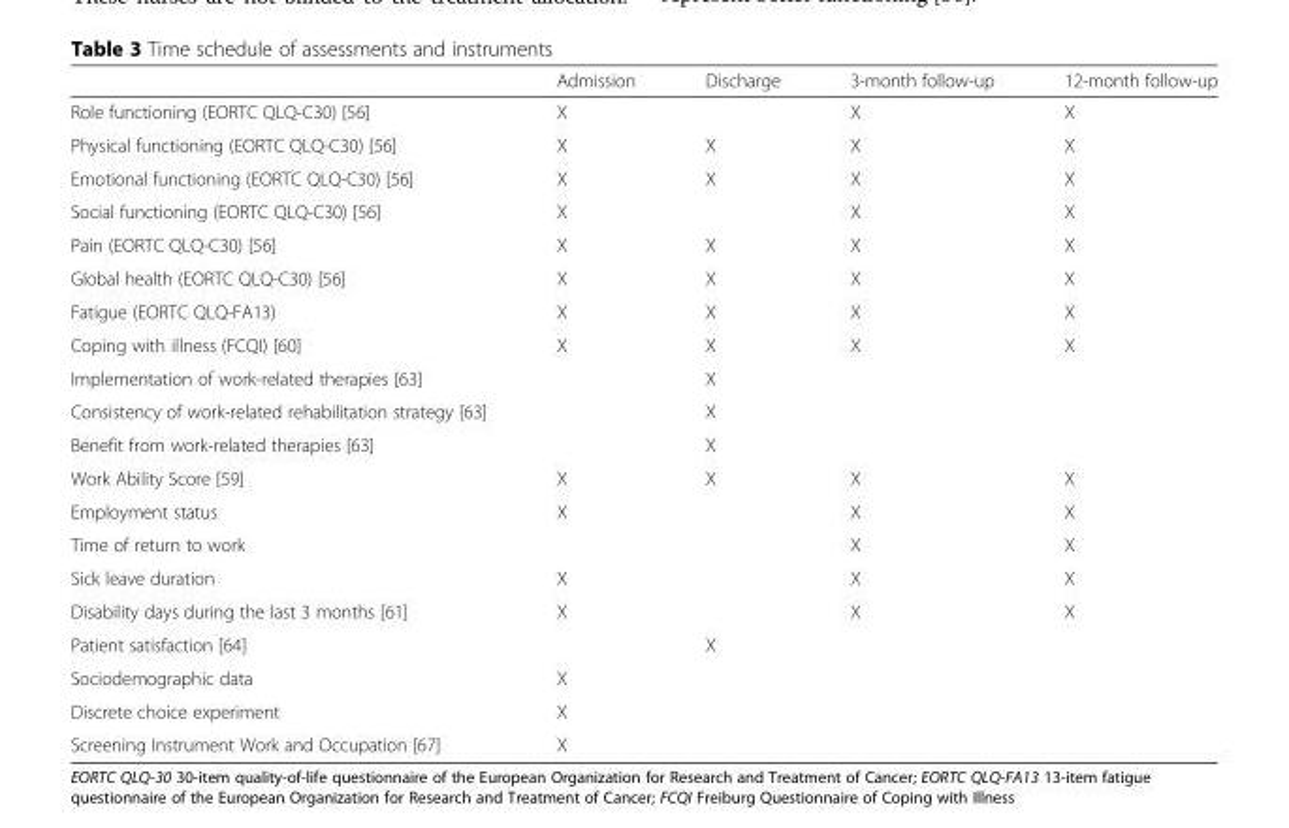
<table><thead><tr><td></td><td>Admission</td><td>Discharge</td><td>3-month follow-up</td><td>12-month follow-up</td></tr></thead><tbody><tr><td>Role functioning (EORTC QLQ-C30) [56]</td><td>X</td><td></td><td>X</td><td>X</td></tr><tr><td>Physical functioning (EORTC QLQ-C30) [56]</td><td>X</td><td>X</td><td>X</td><td>X</td></tr><tr><td>Emotional functioning (EORTC QLQ-C30) [56]</td><td>X</td><td>X</td><td>X</td><td>X</td></tr><tr><td>Social functioning (EORTC QLQ-C30) [56]</td><td>X</td><td></td><td>X</td><td>X</td></tr><tr><td>Pain (EORTC QLQ-C30) [56]</td><td>X</td><td>X</td><td>X</td><td>X</td></tr><tr><td>Global health (EORTC QLQ-C30) [56]</td><td>X</td><td>X</td><td>X</td><td>X</td></tr><tr><td>Fatigue (EORTC QLQ-FA13)</td><td>X</td><td>X</td><td>X</td><td>X</td></tr><tr><td>Coping with illness (FCQI) [60]</td><td>X</td><td>X</td><td>X</td><td>X</td></tr><tr><td>Implementation of work-related therapies [63]</td><td></td><td>X</td><td></td><td></td></tr><tr><td>Consistency of work-related rehabilitation strategy [63]</td><td></td><td>X</td><td></td><td></td></tr><tr><td>Benefit from work-related therapies [63]</td><td></td><td>X</td><td></td><td></td></tr><tr><td>Work Ability Score [59]</td><td>X</td><td>X</td><td>X</td><td>X</td></tr><tr><td>Employment status</td><td>X</td><td></td><td>X</td><td>X</td></tr><tr><td>Time of return to work</td><td></td><td></td><td>X</td><td>X</td></tr><tr><td>Sick leave duration</td><td>X</td><td></td><td>X</td><td>X</td></tr><tr><td>Disability days during the last 3 months [61]</td><td>X</td><td></td><td>X</td><td>X</td></tr><tr><td>Patient satisfaction [64]</td><td></td><td>X</td><td></td><td></td></tr><tr><td>Sociodemographic data</td><td>X</td><td></td><td></td><td></td></tr><tr><td>Discrete choice experiment</td><td>X</td><td></td><td></td><td></td></tr><tr><td>Screening Instrument Work and Occupation [67]</td><td>X</td><td></td><td></td><td></td></tr></tbody></table>